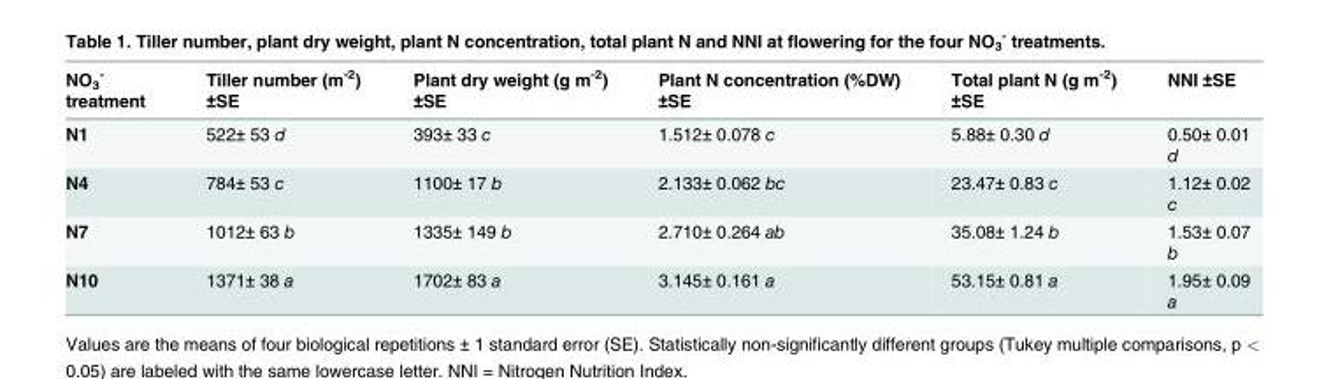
<table><thead><tr><td>NO<sub>3</sub> <sup>-</sup> treatment</td><td>Tiller number (m<sup>-2</sup>) ±SE</td><td>Plant dry weight (g m<sup>-2</sup>) ±SE</td><td>Plant N concentration (%DW) ±SE</td><td>Total plant N (g m<sup>-2</sup>) ±SE</td><td>NNI ±SE</td></tr></thead><tbody><tr><td>N1</td><td>522± 53 d</td><td>393± 33 c</td><td>1.512± 0.078 c</td><td>5.88± 0.30 d</td><td>0.50± 0.01 d</td></tr><tr><td>N4</td><td>784± 53 c</td><td>1100± 17 b</td><td>2.133± 0.062 bc</td><td>23.47± 0.83 c</td><td>1.12± 0.02 c</td></tr><tr><td>N7</td><td>1012± 63 b</td><td>1335± 149 b</td><td>2.710± 0.264 ab</td><td>35.08± 1.24 b</td><td>1.53± 0.07 b</td></tr><tr><td>N10</td><td>1371± 38 a</td><td>1702± 83 a</td><td>3.145± 0.161 a</td><td>53.15± 0.81 a</td><td>1.95± 0.09 a</td></tr></tbody></table>